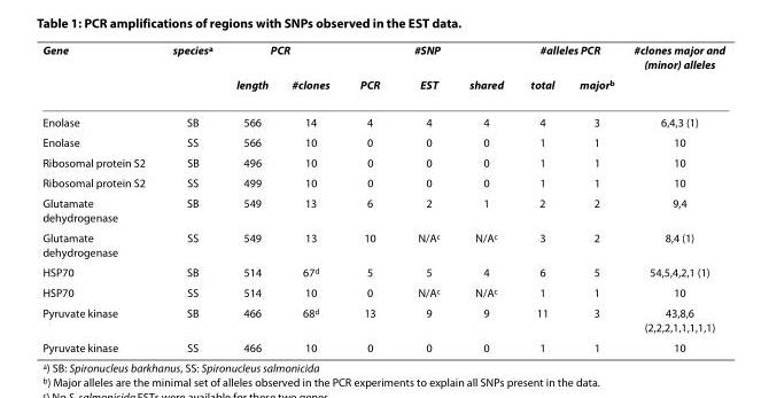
<table><thead><tr><td rowspan="2">Gene</td><td rowspan="2">species<sup>a</sup></td><td colspan="2">PCR</td><td colspan="3">#SNP</td><td colspan="2">#alleles PCR</td><td rowspan="2">#clones major and (minor) alleles</td></tr><tr><td>length</td><td>#clones</td><td>PCR</td><td>EST</td><td>shared</td><td>total</td><td>major<sup>b</sup></td></tr></thead><tbody><tr><td>Enolase</td><td>SB</td><td>566</td><td>14</td><td>4</td><td>4</td><td>4</td><td>4</td><td>3</td><td>6,4,3 (1)</td></tr><tr><td>Enolase</td><td>SS</td><td>566</td><td>10</td><td>0</td><td>0</td><td>0</td><td>1</td><td>1</td><td>10</td></tr><tr><td>Ribosomal protein S2</td><td>SB</td><td>496</td><td>10</td><td>0</td><td>0</td><td>0</td><td>1</td><td>1</td><td>10</td></tr><tr><td>Ribosomal protein S2</td><td>SS</td><td>499</td><td>10</td><td>0</td><td>0</td><td>0</td><td>1</td><td>1</td><td>10</td></tr><tr><td>Glutamate dehydrogenase</td><td>SB</td><td>549</td><td>13</td><td>6</td><td>2</td><td>1</td><td>2</td><td>2</td><td>9,4</td></tr><tr><td>Glutamate dehydrogenase</td><td>SS</td><td>549</td><td>13</td><td>10</td><td>N/A<sup>c</sup></td><td>N/A<sup>c</sup></td><td>3</td><td>2</td><td>8,4 (1)</td></tr><tr><td>HSP70</td><td>SB</td><td>514</td><td>67<sup>d</sup></td><td>5</td><td>5</td><td>4</td><td>6</td><td>5</td><td>54,5,4,2,1 (1)</td></tr><tr><td>HSP70</td><td>SS</td><td>514</td><td>10</td><td>0</td><td>N/A<sup>c</sup></td><td>N/A<sup>c</sup></td><td>1</td><td>1</td><td>10</td></tr><tr><td>Pyruvate kinase</td><td>SB</td><td>466</td><td>68<sup>d</sup></td><td>13</td><td>9</td><td>9</td><td>11</td><td>3</td><td>43,8,6 (2,2,2,1,1,1,1,1)</td></tr><tr><td>Pyruvate kinase</td><td>SS</td><td>466</td><td>10</td><td>0</td><td>0</td><td>0</td><td>1</td><td>1</td><td>10</td></tr></tbody></table>